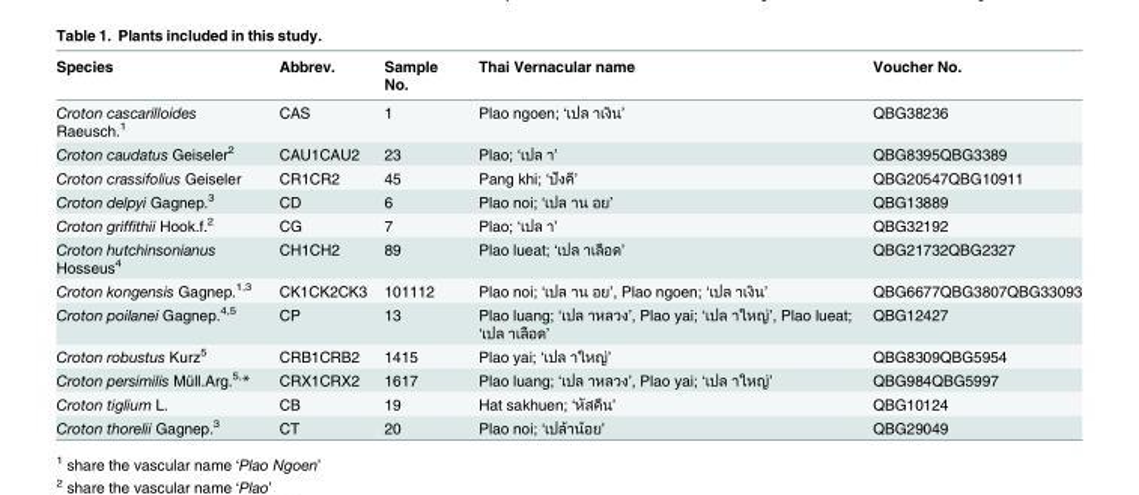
<table><thead><tr><td>Species</td><td>Abbrev.</td><td>Sample No.</td><td>Thai Vernacular name</td><td>Voucher No.</td></tr></thead><tbody><tr><td>Croton cascarilloides Raeusch.<sup>1</sup></td><td>CAS</td><td>1</td><td>Plao ngoen; ‘เปล้าเงิน’</td><td>QBG38236</td></tr><tr><td>Croton caudatus Geiseler<sup>2</sup></td><td>CAU1CAU2</td><td>23</td><td>Plao; ‘เปล้า’</td><td>QBG8395QBG3389</td></tr><tr><td>Croton crassifolius Geiseler</td><td>CR1CR2</td><td>45</td><td>Pang khi; ‘ปังคี’</td><td>QBG20547QBG10911</td></tr><tr><td>Croton delpyi Gagnep.<sup>3</sup></td><td>CD</td><td>6</td><td>Plao noi; ‘เปล้าน้อย’</td><td>QBG13889</td></tr><tr><td>Croton griffithii Hook.f.<sup>2</sup></td><td>CG</td><td>7</td><td>Plao; ‘เปล้า’</td><td>QBG32192</td></tr><tr><td>Croton hutchinsonianus Hosseus<sup>4</sup></td><td>CH1CH2</td><td>89</td><td>Plao lueat; ‘เปล้าเลือด’</td><td>QBG21732QBG2327</td></tr><tr><td>Croton kongensis Gagnep.<sup>1,3</sup></td><td>CK1CK2CK3</td><td>101112</td><td>Plao noi; ‘เปล้าน้อย’, Plao ngoen; ‘เปล้าเงิน’</td><td>QBG6677QBG3807QBG33093</td></tr><tr><td>Croton poilanei Gagnep.<sup>4,5</sup></td><td>CP</td><td>13</td><td>Plao luang; ‘เปล้าหลวง’, Plao yai; ‘เปล้าใหญ’, Plao lueat; ‘เปล้าเลือด’</td><td>QBG12427</td></tr><tr><td>Croton robustus Kurz<sup>5</sup></td><td>CRB1CRB2</td><td>1415</td><td>Plao yai; ‘เปล้าใหญ’</td><td>QBG8309QBG5954</td></tr><tr><td>Croton persimilis Müll.Arg.<sup>5,</sup>*</td><td>CRX1CRX2</td><td>1617</td><td>Plao luang; ‘เปล้าหลวง’, Plao yai; ‘เปล้าใหญ’</td><td>QBG984QBG5997</td></tr><tr><td>Croton tiglium L.</td><td>CB</td><td>19</td><td>Hat sakhuen; ‘หัสคืน’</td><td>QBG10124</td></tr><tr><td>Croton thorelii Gagnep.<sup>3</sup></td><td>CT</td><td>20</td><td>Plao noi; ‘เปลานอย’</td><td>QBG29049</td></tr></tbody></table>